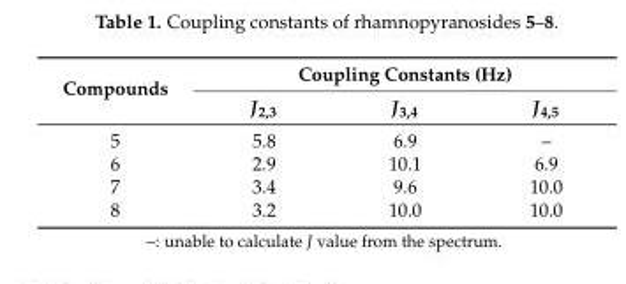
<table><thead><tr><td rowspan="2">Compounds</td><td colspan="3">Coupling Constants (Hz)</td></tr><tr><td>J2,3</td><td>J3,4</td><td>J4,5</td></tr></thead><tbody><tr><td>5</td><td>5.8</td><td>6.9</td><td>–</td></tr><tr><td>6</td><td>2.9</td><td>10.1</td><td>6.9</td></tr><tr><td>7</td><td>3.4</td><td>9.6</td><td>10.0</td></tr><tr><td>8</td><td>3.2</td><td>10.0</td><td>10.0</td></tr></tbody></table>